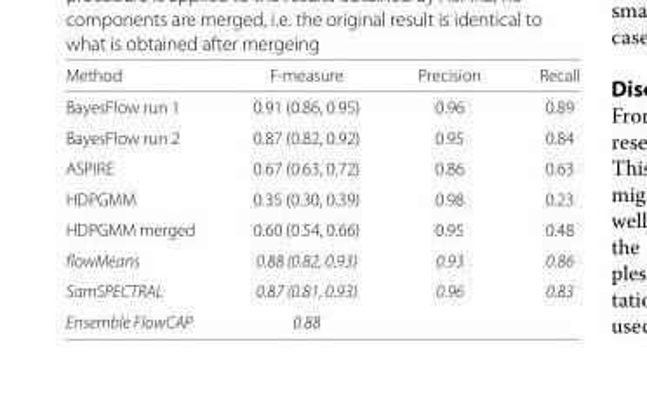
<table><thead><tr><td>Method</td><td>F-measure</td><td>Precision</td><td>Recall</td></tr></thead><tbody><tr><td>BayesFlow run 1</td><td>0.91 (0.86, 0.95)</td><td>0.96</td><td>0.89</td></tr><tr><td>BayesFlow run 2</td><td>0.87 (0.82, 0.92)</td><td>0.95</td><td>0.84</td></tr><tr><td>ASPIRE</td><td>0.67 (0.63, 0.72)</td><td>0.86</td><td>0.63</td></tr><tr><td>HDPGMM</td><td>0.35 (0.30, 0.39)</td><td>0.98</td><td>0.23</td></tr><tr><td>HDPGMM merged</td><td>0.60 (0.54, 0.66)</td><td>0.95</td><td>0.48</td></tr><tr><td>flowMeans</td><td>0.88 (0.82, 0.93)</td><td>0.93</td><td>0.86</td></tr><tr><td>SamSPECTRAL</td><td>0.87 (0.81, 0.93)</td><td>0.96</td><td>0.83</td></tr><tr><td>Ensemble FlowCAP</td><td>0.88</td><td></td><td></td></tr></tbody></table>